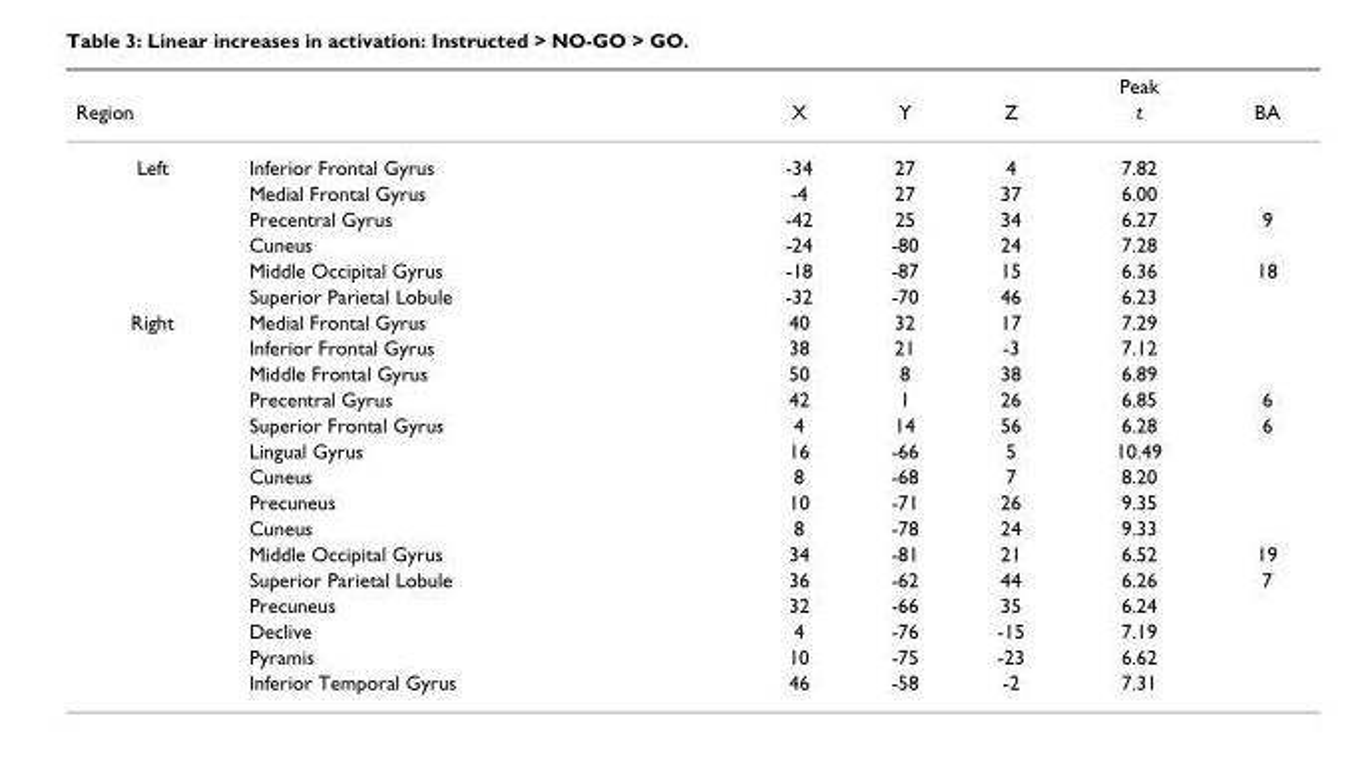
<table><thead><tr><td rowspan="2">Region</td><td rowspan="2"></td><td rowspan="2">X</td><td rowspan="2">Y</td><td rowspan="2">Z</td><td rowspan="2">Peak t</td><td rowspan="2">BA</td></tr><tr></tr></thead><tbody><tr><td rowspan="6">Left</td><td>Inferior Frontal Gyrus</td><td>-34</td><td>27</td><td>4</td><td>7.82</td><td></td></tr><tr><td>Medial Frontal Gyrus</td><td>-4</td><td>27</td><td>37</td><td>6.00</td><td></td></tr><tr><td>Precentral Gyrus</td><td>-42</td><td>25</td><td>34</td><td>6.27</td><td>9</td></tr><tr><td>Cuneus</td><td>-24</td><td>-80</td><td>24</td><td>7.28</td><td></td></tr><tr><td>Middle Occipital Gyrus</td><td>-18</td><td>-87</td><td>15</td><td>6.36</td><td>18</td></tr><tr><td>Superior Parietal Lobule</td><td>-32</td><td>-70</td><td>46</td><td>6.23</td><td></td></tr><tr><td rowspan="15">Right</td><td>Medial Frontal Gyrus</td><td>40</td><td>32</td><td>17</td><td>7.29</td><td></td></tr><tr><td>Inferior Frontal Gyrus</td><td>38</td><td>21</td><td>-3</td><td>7.12</td><td></td></tr><tr><td>Middle Frontal Gyrus</td><td>50</td><td>8</td><td>38</td><td>6.89</td><td></td></tr><tr><td>Precentral Gyrus</td><td>42</td><td>1</td><td>26</td><td>6.85</td><td>6</td></tr><tr><td>Superior Frontal Gyrus</td><td>4</td><td>14</td><td>56</td><td>6.28</td><td>6</td></tr><tr><td>Lingual Gyrus</td><td>16</td><td>-66</td><td>5</td><td>10.49</td><td></td></tr><tr><td>Cuneus</td><td>8</td><td>-68</td><td>7</td><td>8.20</td><td></td></tr><tr><td>Precuneus</td><td>10</td><td>-71</td><td>26</td><td>9.35</td><td></td></tr><tr><td>Cuneus</td><td>8</td><td>-78</td><td>24</td><td>9.33</td><td></td></tr><tr><td>Middle Occipital Gyrus</td><td>34</td><td>-81</td><td>21</td><td>6.52</td><td>19</td></tr><tr><td>Superior Parietal Lobule</td><td>36</td><td>-62</td><td>44</td><td>6.26</td><td>7</td></tr><tr><td>Precuneus</td><td>32</td><td>-66</td><td>35</td><td>6.24</td><td></td></tr><tr><td>Declive</td><td>4</td><td>-76</td><td>-15</td><td>7.19</td><td></td></tr><tr><td>Pyramis</td><td>10</td><td>-75</td><td>-23</td><td>6.62</td><td></td></tr><tr><td>Inferior Temporal Gyrus</td><td>46</td><td>-58</td><td>-2</td><td>7.31</td><td></td></tr></tbody></table>